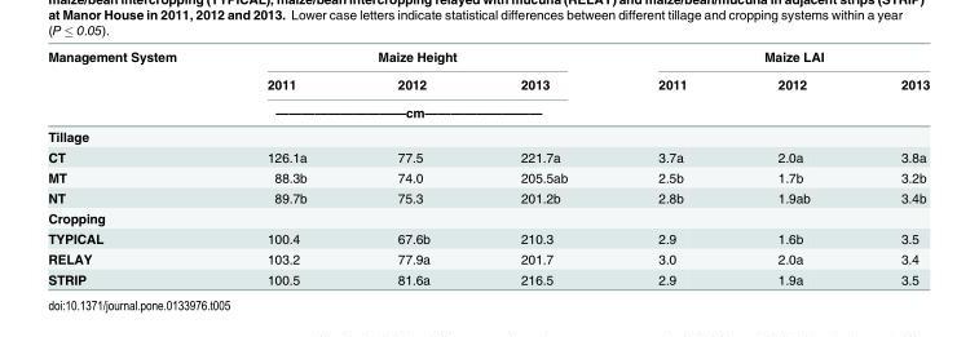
<table><thead><tr><td rowspan="3">Management System</td><td colspan="3">Maize Height</td><td colspan="3">Maize LAI</td></tr><tr><td>2011</td><td>2012</td><td>2013</td><td rowspan="2">2011</td><td rowspan="2">2012</td><td rowspan="2">2013</td></tr><tr><td colspan="3">——————————cm—————————</td></tr></thead><tbody><tr><td colspan="7">Tillage</td></tr><tr><td>CT</td><td>126.1a</td><td>77.5</td><td>221.7a</td><td>3.7a</td><td>2.0a</td><td>3.8a</td></tr><tr><td>MT</td><td>88.3b</td><td>74.0</td><td>205.5ab</td><td>2.5b</td><td>1.7b</td><td>3.2b</td></tr><tr><td>NT</td><td>89.7b</td><td>75.3</td><td>201.2b</td><td>2.8b</td><td>1.9ab</td><td>3.4b</td></tr><tr><td colspan="7">Cropping</td></tr><tr><td>TYPICAL</td><td>100.4</td><td>67.6b</td><td>210.3</td><td>2.9</td><td>1.6b</td><td>3.5</td></tr><tr><td>RELAY</td><td>103.2</td><td>77.9a</td><td>201.7</td><td>3.0</td><td>2.0a</td><td>3.4</td></tr><tr><td>STRIP</td><td>100.5</td><td>81.6a</td><td>216.5</td><td>2.9</td><td>1.9a</td><td>3.5</td></tr></tbody></table>